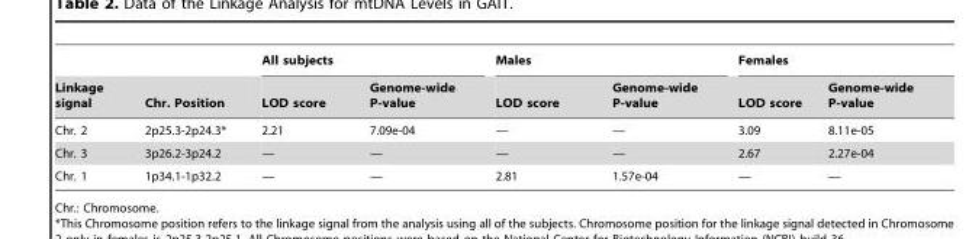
<table><thead><tr><td rowspan="2">Linkage signal</td><td rowspan="2">Chr. Position</td><td colspan="2">All subjects</td><td colspan="2">Males</td><td colspan="2">Females</td></tr><tr><td>LOD score</td><td>Genome-wide P-value</td><td>LOD score</td><td>Genome-wide P-value</td><td>LOD score</td><td>Genome-wide P-value</td></tr></thead><tbody><tr><td>Chr. 2</td><td>2p25.3-2p24.3*</td><td>2.21</td><td>7.09e-04</td><td>—</td><td>—</td><td>3.09</td><td>8.11e-05</td></tr><tr><td>Chr. 3</td><td>3p26.2-3p24.2</td><td>—</td><td>—</td><td>—</td><td>—</td><td>2.67</td><td>2.27e-04</td></tr><tr><td>Chr. 1</td><td>1p34.1-1p32.2</td><td>—</td><td>—</td><td>2.81</td><td>1.57e-04</td><td>—</td><td>—</td></tr></tbody></table>